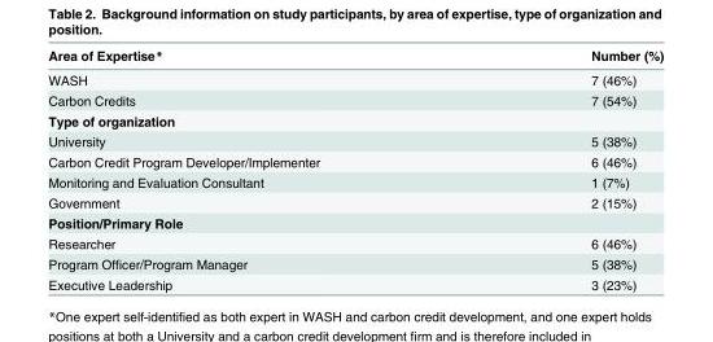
<table><thead><tr><td>Area of Expertise*</td><td>Number (%)</td></tr></thead><tbody><tr><td>WASH</td><td>7 (46%)</td></tr><tr><td>Carbon Credits</td><td>7 (54%)</td></tr><tr><td colspan="2">Type of organization</td></tr><tr><td>University</td><td>5 (38%)</td></tr><tr><td>Carbon Credit Program Developer/Implementer</td><td>6 (46%)</td></tr><tr><td>Monitoring and Evaluation Consultant</td><td>1 (7%)</td></tr><tr><td>Government</td><td>2 (15%)</td></tr><tr><td colspan="2">Position/Primary Role</td></tr><tr><td>Researcher</td><td>6 (46%)</td></tr><tr><td>Program Officer/Program Manager</td><td>5 (38%)</td></tr><tr><td>Executive Leadership</td><td>3 (23%)</td></tr></tbody></table>